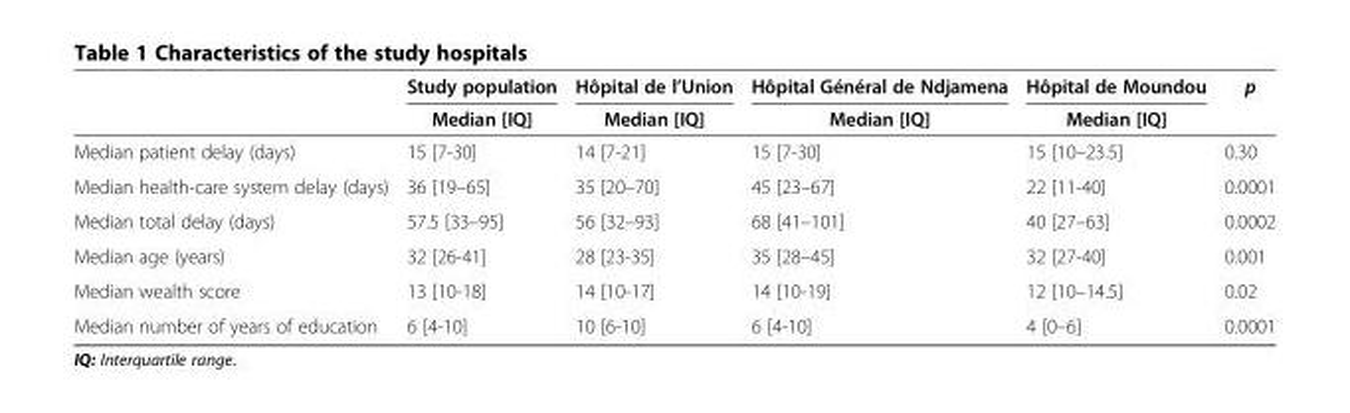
<table><thead><tr><td rowspan="2"></td><td rowspan="2">Study population Median [IQ]</td><td rowspan="2">Hôpital de l’Union Median [IQ]</td><td rowspan="2">Hôpital Général de Ndjamena Median [IQ]</td><td rowspan="2">Hôpital de Moundou Median [IQ]</td><td rowspan="2">p</td></tr><tr></tr></thead><tbody><tr><td>Median patient delay (days)</td><td>15 [7-30]</td><td>14 [7-21]</td><td>15 [7-30]</td><td>15 [10–23.5]</td><td>0.30</td></tr><tr><td>Median health-care system delay (days)</td><td>36 [19–65]</td><td>35 [20–70]</td><td>45 [23–67]</td><td>22 [11-40]</td><td>0.0001</td></tr><tr><td>Median total delay (days)</td><td>57.5 [33–95]</td><td>56 [32–93]</td><td>68 [41–101]</td><td>40 [27–63]</td><td>0.0002</td></tr><tr><td>Median age (years)</td><td>32 [26-41]</td><td>28 [23-35]</td><td>35 [28–45]</td><td>32 [27-40]</td><td>0.001</td></tr><tr><td>Median wealth score</td><td>13 [10-18]</td><td>14 [10-17]</td><td>14 [10-19]</td><td>12 [10–14.5]</td><td>0.02</td></tr><tr><td>Median number of years of education</td><td>6 [4-10]</td><td>10 [6-10]</td><td>6 [4-10]</td><td>4 [0–6]</td><td>0.0001</td></tr></tbody></table>